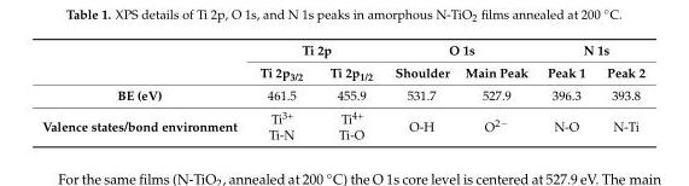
<table><thead><tr><td rowspan="2"></td><td colspan="2">Ti 2p</td><td colspan="2">O 1s</td><td colspan="2">N 1s</td></tr><tr><td>Ti 2p<sub>3/2</sub></td><td>Ti 2p<sub>1/2</sub></td><td>Shoulder</td><td>Main Peak</td><td>Peak 1</td><td>Peak 2</td></tr></thead><tbody><tr><td>BE (eV)</td><td>461.5</td><td>455.9</td><td>531.7</td><td>527.9</td><td>396.3</td><td>393.8</td></tr><tr><td>Valence states/bond environment</td><td>Ti<sup>3+</sup> Ti-N</td><td>Ti<sup>4+</sup> Ti-O</td><td>O-H</td><td>O<sup>2−</sup></td><td>N-O</td><td>N-Ti</td></tr></tbody></table>